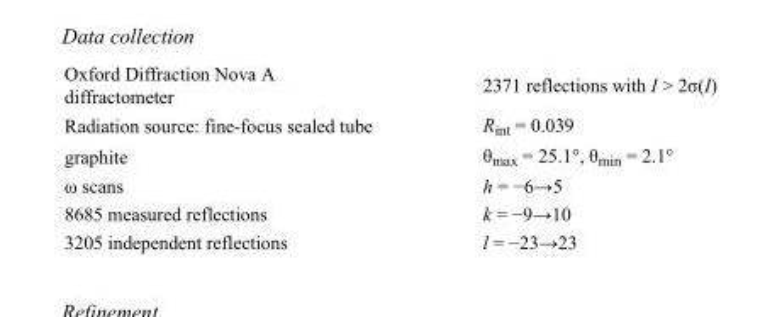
<table><tbody><tr><td>Oxford Diffraction Nova A diffractometer</td><td>2371 reflections with I &gt; 2σ(I)</td></tr><tr><td>Radiation source: fine-focus sealed tube</td><td>R<sub>int</sub> = 0.039</td></tr><tr><td>graphite</td><td>θ<sub>max</sub> = 25.1°, θ<sub>min</sub> = 2.1°</td></tr><tr><td>ω scans</td><td>h = −6→5</td></tr><tr><td>8685 measured reflections</td><td>k = −9→10</td></tr><tr><td>3205 independent reflections</td><td>l = −23→23</td></tr></tbody></table>